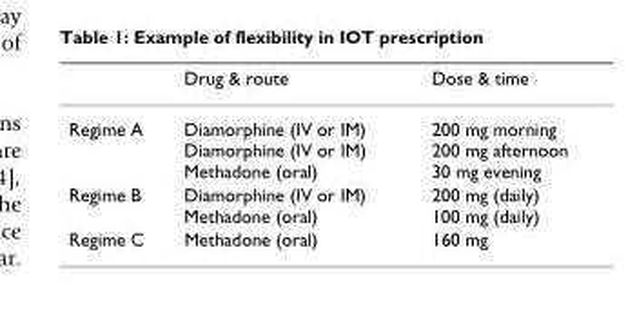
<table><thead><tr><td></td><td>Drug &amp; route</td><td>Dose &amp; time</td></tr></thead><tbody><tr><td>Regime A</td><td>Diamorphine (IV or IM) Diamorphine (IV or IM) Methadone (oral)</td><td>200 mg morning 200 mg afternoon 30 mg evening</td></tr><tr><td>Regime B</td><td>Diamorphine (IV or IM) Methadone (oral)</td><td>200 mg (daily) 100 mg (daily)</td></tr><tr><td>Regime C</td><td>Methadone (oral)</td><td>160 mg</td></tr></tbody></table>